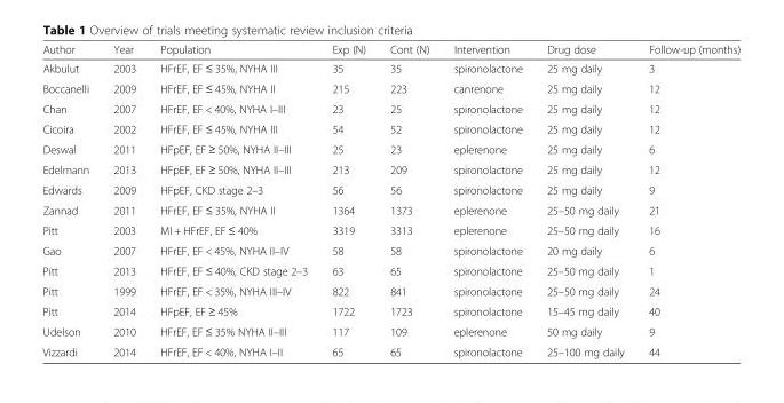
<table><thead><tr><td>Author</td><td>Year</td><td>Population</td><td>Exp (N)</td><td>Cont (N)</td><td>Intervention</td><td>Drug dose</td><td>Follow-up (months)</td></tr></thead><tbody><tr><td>Akbulut</td><td>2003</td><td>HFrEF, EF ≤ 35%, NYHA III</td><td>35</td><td>35</td><td>spironolactone</td><td>25 mg daily</td><td>3</td></tr><tr><td>Boccanelli</td><td>2009</td><td>HFrEF, EF ≤ 45%, NYHA II</td><td>215</td><td>223</td><td>canrenone</td><td>25 mg daily</td><td>12</td></tr><tr><td>Chan</td><td>2007</td><td>HFrEF, EF &lt; 40%, NYHA I–III</td><td>23</td><td>25</td><td>spironolactone</td><td>25 mg daily</td><td>12</td></tr><tr><td>Cicoira</td><td>2002</td><td>HFrEF, EF ≤ 45%, NYHA III</td><td>54</td><td>52</td><td>spironolactone</td><td>25 mg daily</td><td>12</td></tr><tr><td>Deswal</td><td>2011</td><td>HFpEF, EF ≥ 50%, NYHA II–III</td><td>25</td><td>23</td><td>eplerenone</td><td>25 mg daily</td><td>6</td></tr><tr><td>Edelmann</td><td>2013</td><td>HFpEF, EF ≥ 50%, NYHA II–III</td><td>213</td><td>209</td><td>spironolactone</td><td>25 mg daily</td><td>12</td></tr><tr><td>Edwards</td><td>2009</td><td>HFpEF, CKD stage 2–3</td><td>56</td><td>56</td><td>spironolactone</td><td>25 mg daily</td><td>9</td></tr><tr><td>Zannad</td><td>2011</td><td>HFrEF, EF ≤ 35%, NYHA II</td><td>1364</td><td>1373</td><td>eplerenone</td><td>25–50 mg daily</td><td>21</td></tr><tr><td>Pitt</td><td>2003</td><td>MI + HFrEF, EF ≤ 40%</td><td>3319</td><td>3313</td><td>eplerenone</td><td>25–50 mg daily</td><td>16</td></tr><tr><td>Gao</td><td>2007</td><td>HFrEF, EF &lt; 45%, NYHA II–IV</td><td>58</td><td>58</td><td>spironolactone</td><td>20 mg daily</td><td>6</td></tr><tr><td>Pitt</td><td>2013</td><td>HFrEF, EF ≤ 40%, CKD stage 2–3</td><td>63</td><td>65</td><td>spironolactone</td><td>25–50 mg daily</td><td>1</td></tr><tr><td>Pitt</td><td>1999</td><td>HFrEF, EF &lt; 35%, NYHA III–IV</td><td>822</td><td>841</td><td>spironolactone</td><td>25–50 mg daily</td><td>24</td></tr><tr><td>Pitt</td><td>2014</td><td>HFpEF, EF ≥ 45%</td><td>1722</td><td>1723</td><td>spironolactone</td><td>15–45 mg daily</td><td>40</td></tr><tr><td>Udelson</td><td>2010</td><td>HFrEF, EF ≤ 35% NYHA II–III</td><td>117</td><td>109</td><td>eplerenone</td><td>50 mg daily</td><td>9</td></tr><tr><td>Vizzardi</td><td>2014</td><td>HFrEF, EF &lt; 40%, NYHA I–II</td><td>65</td><td>65</td><td>spironolactone</td><td>25–100 mg daily</td><td>44</td></tr></tbody></table>